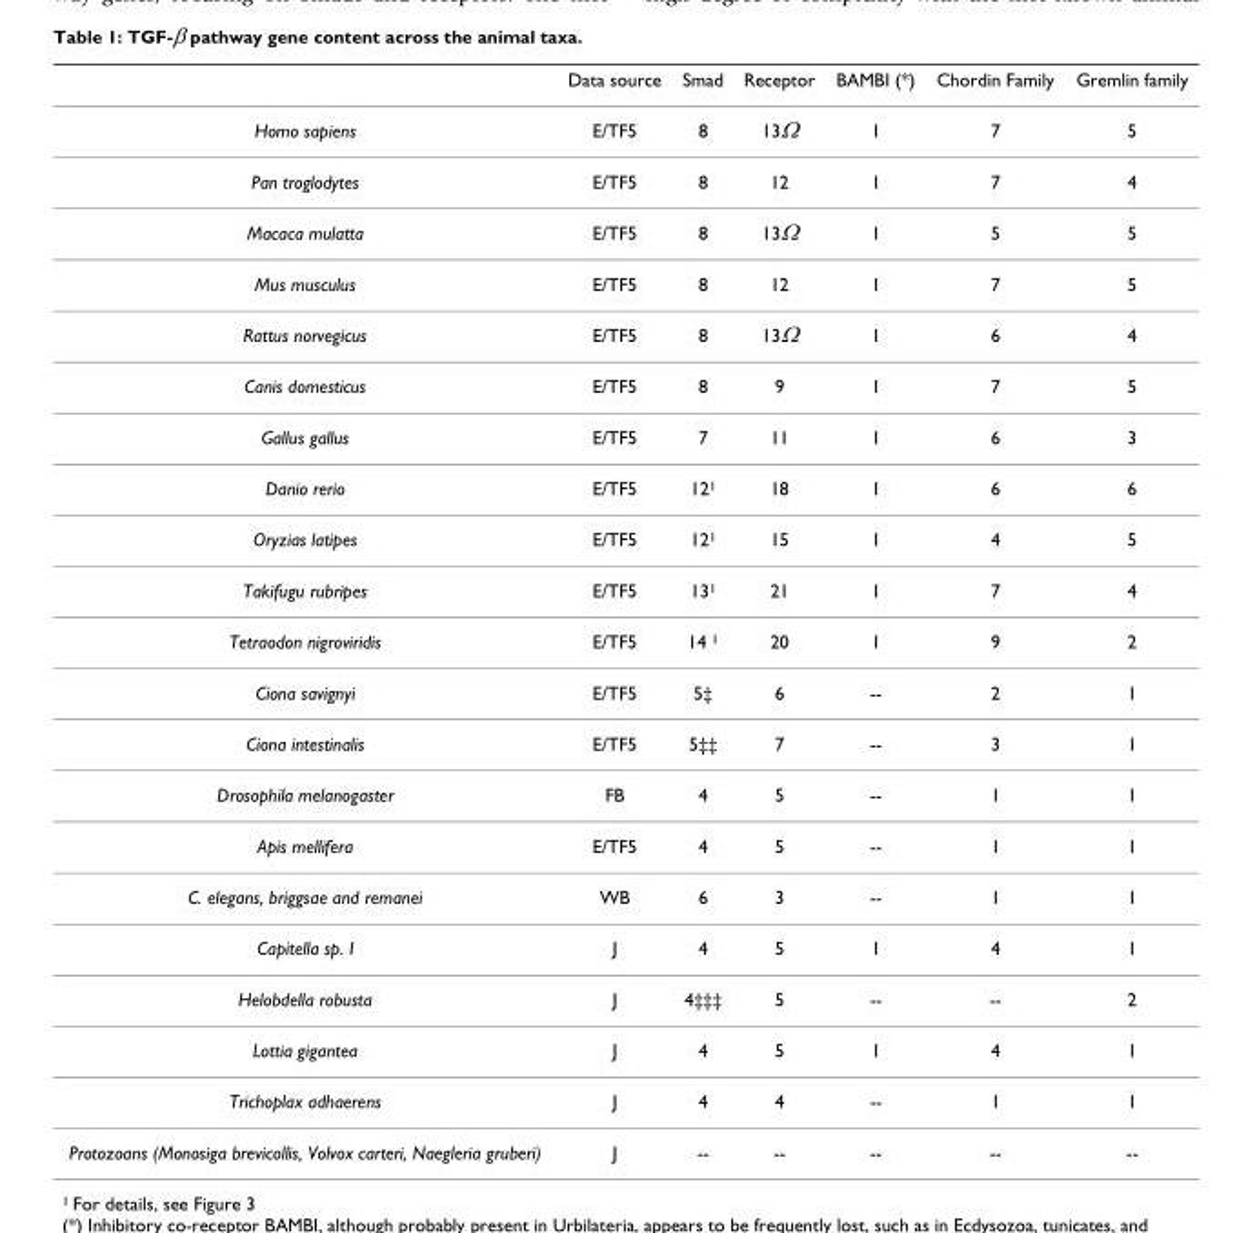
<table><thead><tr><td></td><td>Data source</td><td>Smad</td><td>Receptor</td><td>BAMBI (*)</td><td>Chordin Family</td><td>Gremlin family</td></tr></thead><tbody><tr><td>Homo sapiens</td><td>E/TF5</td><td>8</td><td>13<sup>Ω</sup></td><td>1</td><td>7</td><td>5</td></tr><tr><td>Pan troglodytes</td><td>E/TF5</td><td>8</td><td>12</td><td>1</td><td>7</td><td>4</td></tr><tr><td>Macaca mulatta</td><td>E/TF5</td><td>8</td><td>13<sup>Ω</sup></td><td>1</td><td>5</td><td>5</td></tr><tr><td>Mus musculus</td><td>E/TF5</td><td>8</td><td>12</td><td>1</td><td>7</td><td>5</td></tr><tr><td>Rattus norvegicus</td><td>E/TF5</td><td>8</td><td>13<sup>Ω</sup></td><td>1</td><td>6</td><td>4</td></tr><tr><td>Canis domesticus</td><td>E/TF5</td><td>8</td><td>9</td><td>1</td><td>7</td><td>5</td></tr><tr><td>Gallus gallus</td><td>E/TF5</td><td>7</td><td>11</td><td>1</td><td>6</td><td>3</td></tr><tr><td>Danio rerio</td><td>E/TF5</td><td>12<sup>1</sup></td><td>18</td><td>1</td><td>6</td><td>6</td></tr><tr><td>Oryzias latipes</td><td>E/TF5</td><td>12<sup>1</sup></td><td>15</td><td>1</td><td>4</td><td>5</td></tr><tr><td>Takifugu rubripes</td><td>E/TF5</td><td>13<sup>1</sup></td><td>21</td><td>1</td><td>7</td><td>4</td></tr><tr><td>Tetraodon nigroviridis</td><td>E/TF5</td><td>14 <sup>1</sup></td><td>20</td><td>1</td><td>9</td><td>2</td></tr><tr><td>Ciona savignyi</td><td>E/TF5</td><td>5‡</td><td>6</td><td>--</td><td>2</td><td>1</td></tr><tr><td>Ciona intestinalis</td><td>E/TF5</td><td>5‡‡</td><td>7</td><td>--</td><td>3</td><td>1</td></tr><tr><td>Drosophila melanogaster</td><td>FB</td><td>4</td><td>5</td><td>--</td><td>1</td><td>1</td></tr><tr><td>Apis mellifera</td><td>E/TF5</td><td>4</td><td>5</td><td>--</td><td>1</td><td>1</td></tr><tr><td>C. elegans, briggsae and remanei</td><td>WB</td><td>6</td><td>3</td><td>--</td><td>1</td><td>1</td></tr><tr><td>Capitella sp. I</td><td>J</td><td>4</td><td>5</td><td>1</td><td>4</td><td>1</td></tr><tr><td>Helobdella robusta</td><td>J</td><td>4‡‡‡</td><td>5</td><td>--</td><td>--</td><td>2</td></tr><tr><td>Lottia gigantea</td><td>J</td><td>4</td><td>5</td><td>1</td><td>4</td><td>1</td></tr><tr><td>Trichoplax adhaerens</td><td>J</td><td>4</td><td>4</td><td>--</td><td>1</td><td>1</td></tr><tr><td>Protozoans (Monosiga brevicollis, Volvox carteri, Naegleria gruberi)</td><td>J</td><td>--</td><td>--</td><td>--</td><td>--</td><td>--</td></tr></tbody></table>